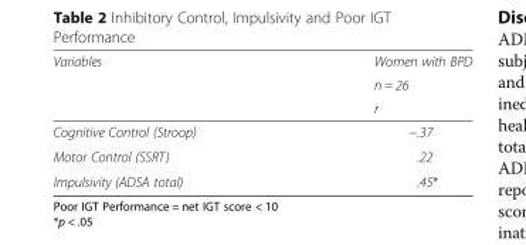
<table><thead><tr><td rowspan="3">Variables</td><td rowspan="3">Women with BPD n = 26 r</td></tr><tr></tr><tr></tr></thead><tbody><tr><td>Cognitive Control (Stroop)</td><td>−.37</td></tr><tr><td>Motor Control (SSRT)</td><td>.22</td></tr><tr><td>Impulsivity (ADSA total)</td><td>.45*</td></tr></tbody></table>